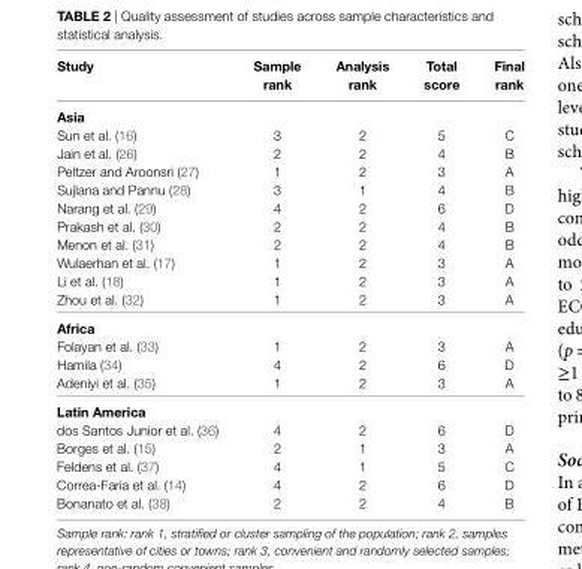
<table><thead><tr><td>Study</td><td>Sample rank</td><td>analysis rank</td><td>total score</td><td>Final rank</td></tr></thead><tbody><tr><td colspan="5">asia</td></tr><tr><td>Sun et al. (16)</td><td>3</td><td>2</td><td>5</td><td>C</td></tr><tr><td>Jain et al. (26)</td><td>2</td><td>2</td><td>4</td><td>B</td></tr><tr><td>Peltzer and Aroonsri (27)</td><td>1</td><td>2</td><td>3</td><td>A</td></tr><tr><td>Sujlana and Pannu (28)</td><td>3</td><td>1</td><td>4</td><td>B</td></tr><tr><td>Narang et al. (29)</td><td>4</td><td>2</td><td>6</td><td>D</td></tr><tr><td>Prakash et al. (30)</td><td>2</td><td>2</td><td>4</td><td>B</td></tr><tr><td>Menon et al. (31)</td><td>2</td><td>2</td><td>4</td><td>B</td></tr><tr><td>Wulaerhan et al. (17)</td><td>1</td><td>2</td><td>3</td><td>A</td></tr><tr><td>Li et al. (18)</td><td>1</td><td>2</td><td>3</td><td>A</td></tr><tr><td>Zhou et al. (32)</td><td>1</td><td>2</td><td>3</td><td>A</td></tr><tr><td colspan="5">africa</td></tr><tr><td>Folayan et al. (33)</td><td>1</td><td>2</td><td>3</td><td>A</td></tr><tr><td>Hamila (34)</td><td>4</td><td>2</td><td>6</td><td>D</td></tr><tr><td>Adeniyi et al. (35)</td><td>1</td><td>2</td><td>3</td><td>A</td></tr><tr><td colspan="5">latin america</td></tr><tr><td>dos Santos Junior et al. (36)</td><td>4</td><td>2</td><td>6</td><td>D</td></tr><tr><td>Borges et al. (15)</td><td>2</td><td>1</td><td>3</td><td>A</td></tr><tr><td>Feldens et al. (37)</td><td>4</td><td>1</td><td>5</td><td>C</td></tr><tr><td>Correa-Faria et al. (14)</td><td>4</td><td>2</td><td>6</td><td>D</td></tr><tr><td>Bonanato et al. (38)</td><td>2</td><td>2</td><td>4</td><td>B</td></tr></tbody></table>